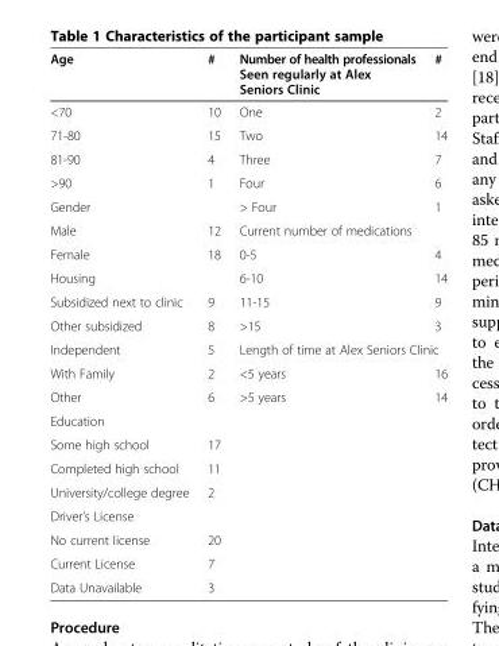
<table><thead><tr><td>Age</td><td>#</td><td>Number of health professionals Seen regularly at Alex Seniors Clinic</td><td>#</td></tr></thead><tbody><tr><td>&lt;70</td><td>10</td><td>One</td><td>2</td></tr><tr><td>71-80</td><td>15</td><td>Two</td><td>14</td></tr><tr><td>81-90</td><td>4</td><td>Three</td><td>7</td></tr><tr><td>&gt;90</td><td>1</td><td>Four</td><td>6</td></tr><tr><td>Gender</td><td></td><td>&gt; Four</td><td>1</td></tr><tr><td>Male</td><td>12</td><td colspan="2">Current number of medications</td></tr><tr><td>Female</td><td>18</td><td>0-5</td><td>4</td></tr><tr><td>Housing</td><td></td><td>6-10</td><td>14</td></tr><tr><td>Subsidized next to clinic</td><td>9</td><td>11-15</td><td>9</td></tr><tr><td>Other subsidized</td><td>8</td><td>&gt;15</td><td>3</td></tr><tr><td>Independent</td><td>5</td><td colspan="2">Length of time at Alex Seniors Clinic</td></tr><tr><td>With Family</td><td>2</td><td>&lt;5 years</td><td>16</td></tr><tr><td>Other</td><td>6</td><td>&gt;5 years</td><td>14</td></tr><tr><td colspan="4">Education</td></tr><tr><td>Some high school</td><td>17</td><td></td><td></td></tr><tr><td>Completed high school</td><td>11</td><td></td><td></td></tr><tr><td>University/college degree</td><td>2</td><td></td><td></td></tr><tr><td colspan="4">Driver’s License</td></tr><tr><td>No current license</td><td>20</td><td></td><td></td></tr><tr><td>Current License</td><td>7</td><td></td><td></td></tr><tr><td>Data Unavailable</td><td>3</td><td></td><td></td></tr></tbody></table>